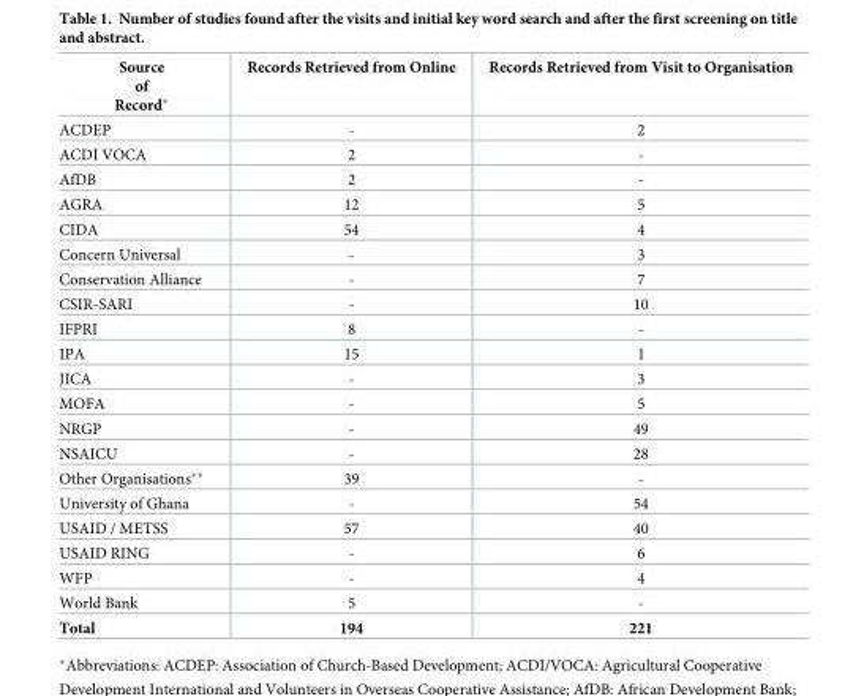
<table><thead><tr><td>Source of Record*</td><td>Records Retrieved from Online</td><td>Records Retrieved from Visit to Organisation</td></tr></thead><tbody><tr><td>ACDEP</td><td>-</td><td>2</td></tr><tr><td>ACDI VOCA</td><td>2</td><td>-</td></tr><tr><td>AfDB</td><td>2</td><td>-</td></tr><tr><td>AGRA</td><td>12</td><td>5</td></tr><tr><td>CIDA</td><td>54</td><td>4</td></tr><tr><td>Concern Universal</td><td>-</td><td>3</td></tr><tr><td>Conservation Alliance</td><td>-</td><td>7</td></tr><tr><td>CSIR-SARI</td><td>-</td><td>10</td></tr><tr><td>IFPRI</td><td>8</td><td>-</td></tr><tr><td>IPA</td><td>15</td><td>1</td></tr><tr><td>JICA</td><td>-</td><td>3</td></tr><tr><td>MOFA</td><td>-</td><td>5</td></tr><tr><td>NRGP</td><td>-</td><td>49</td></tr><tr><td>NSAICU</td><td>-</td><td>28</td></tr><tr><td>Other Organisations**</td><td>39</td><td>-</td></tr><tr><td>University of Ghana</td><td>-</td><td>54</td></tr><tr><td>USAID / METSS</td><td>57</td><td>40</td></tr><tr><td>USAID RING</td><td>-</td><td>6</td></tr><tr><td>WFP</td><td>-</td><td>4</td></tr><tr><td>World Bank</td><td>5</td><td>-</td></tr><tr><td>Total</td><td>194</td><td>221</td></tr></tbody></table>